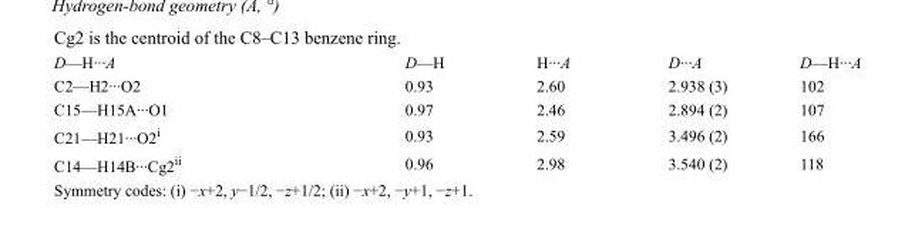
<table><tbody><tr><td>D—H···A</td><td>D—H</td><td>H···A</td><td>D···A</td><td>D—H···A</td></tr><tr><td>C2—H2···O2</td><td>0.93</td><td>2.60</td><td>2.938 (3)</td><td>102</td></tr><tr><td>C15—H15A···O1</td><td>0.97</td><td>2.46</td><td>2.894 (2)</td><td>107</td></tr><tr><td>C21—H21···O2<sup>i</sup></td><td>0.93</td><td>2.59</td><td>3.496 (2)</td><td>166</td></tr><tr><td>C14—H14B···Cg2<sup>ii</sup></td><td>0.96</td><td>2.98</td><td>3.540 (2)</td><td>118</td></tr></tbody></table>